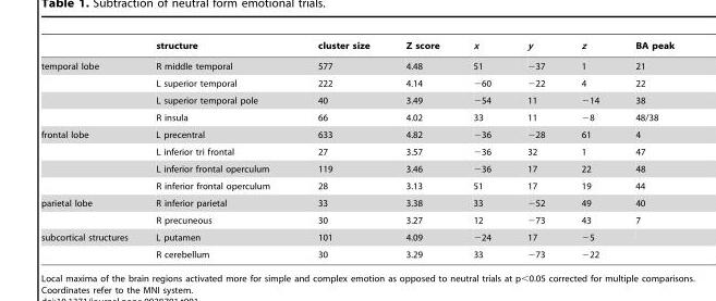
<table><thead><tr><td></td><td>structure</td><td>cluster size</td><td>Z score</td><td>x</td><td>y</td><td>z</td><td>BA peak</td></tr></thead><tbody><tr><td rowspan="4">temporal lobe</td><td>R middle temporal</td><td>577</td><td>4.48</td><td>51</td><td>−37</td><td>1</td><td>21</td></tr><tr><td>L superior temporal</td><td>222</td><td>4.14</td><td>−60</td><td>−22</td><td>4</td><td>22</td></tr><tr><td>L superior temporal pole</td><td>40</td><td>3.49</td><td>−54</td><td>11</td><td>−14</td><td>38</td></tr><tr><td>R insula</td><td>66</td><td>4.02</td><td>33</td><td>11</td><td>−8</td><td>48/38</td></tr><tr><td rowspan="4">frontal lobe</td><td>L precentral</td><td>633</td><td>4.82</td><td>−36</td><td>−28</td><td>61</td><td>4</td></tr><tr><td>L inferior tri frontal</td><td>27</td><td>3.57</td><td>−36</td><td>32</td><td>1</td><td>47</td></tr><tr><td>L inferior frontal operculum</td><td>119</td><td>3.46</td><td>−36</td><td>17</td><td>22</td><td>48</td></tr><tr><td>R inferior frontal operculum</td><td>28</td><td>3.13</td><td>51</td><td>17</td><td>19</td><td>44</td></tr><tr><td rowspan="2">parietal lobe</td><td>R inferior parietal</td><td>33</td><td>3.38</td><td>33</td><td>−52</td><td>49</td><td>40</td></tr><tr><td>R precuneous</td><td>30</td><td>3.27</td><td>12</td><td>−73</td><td>43</td><td>7</td></tr><tr><td rowspan="2">subcortical structures</td><td>L putamen</td><td>101</td><td>4.09</td><td>−24</td><td>17</td><td>−5</td><td></td></tr><tr><td>R cerebellum</td><td>30</td><td>3.29</td><td>33</td><td>−73</td><td>−22</td><td></td></tr></tbody></table>